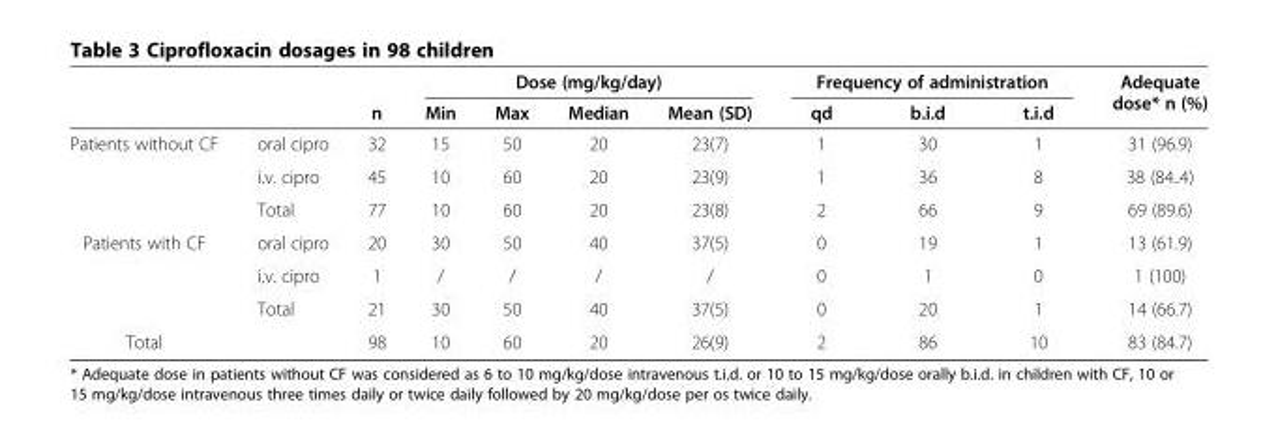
<table><thead><tr><td rowspan="2"></td><td rowspan="2"></td><td rowspan="2">n</td><td colspan="4">Dose (mg/kg/day)</td><td colspan="3">Frequency of administration</td><td rowspan="2">Adequate dose* n (%)</td></tr><tr><td>Min</td><td>Max</td><td>Median</td><td>Mean (SD)</td><td>qd</td><td>b.i.d</td><td>t.i.d</td></tr></thead><tbody><tr><td rowspan="3">Patients without CF</td><td>oral cipro</td><td>32</td><td>15</td><td>50</td><td>20</td><td>23(7)</td><td>1</td><td>30</td><td>1</td><td>31 (96.9)</td></tr><tr><td>i.v. cipro</td><td>45</td><td>10</td><td>60</td><td>20</td><td>23(9)</td><td>1</td><td>36</td><td>8</td><td>38 (84..4)</td></tr><tr><td>Total</td><td>77</td><td>10</td><td>60</td><td>20</td><td>23(8)</td><td>2</td><td>66</td><td>9</td><td>69 (89.6)</td></tr><tr><td rowspan="3">Patients with CF</td><td>oral cipro</td><td>20</td><td>30</td><td>50</td><td>40</td><td>37(5)</td><td>0</td><td>19</td><td>1</td><td>13 (61.9)</td></tr><tr><td>i.v. cipro</td><td>1</td><td>/</td><td>/</td><td>/</td><td>/</td><td>0</td><td>1</td><td>0</td><td>1 (100)</td></tr><tr><td>Total</td><td>21</td><td>30</td><td>50</td><td>40</td><td>37(5)</td><td>0</td><td>20</td><td>1</td><td>14 (66.7)</td></tr><tr><td>Total</td><td></td><td>98</td><td>10</td><td>60</td><td>20</td><td>26(9)</td><td>2</td><td>86</td><td>10</td><td>83 (84.7)</td></tr></tbody></table>